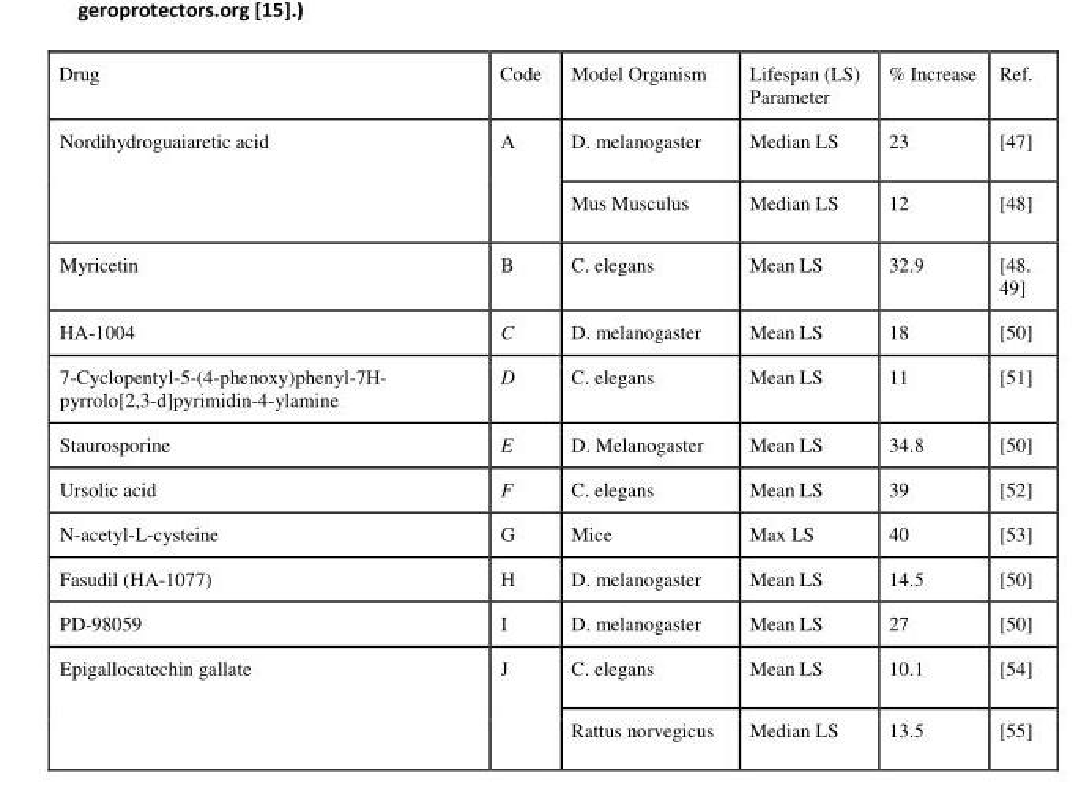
<table><thead><tr><td>Drug</td><td>Code</td><td>Model Organism</td><td>Lifespan (LS) Parameter</td><td>% Increase</td><td>Ref.</td></tr></thead><tbody><tr><td rowspan="2">Nordihydroguaiaretic acid</td><td rowspan="2">A</td><td>D. melanogaster</td><td>Median LS</td><td>23</td><td>[47]</td></tr><tr><td>Mus Musculus</td><td>Median LS</td><td>12</td><td>[48]</td></tr><tr><td>Myricetin</td><td>B</td><td>C. elegans</td><td>Mean LS</td><td>32.9</td><td>[48. 49]</td></tr><tr><td>HA-1004</td><td>C</td><td>D. melanogaster</td><td>Mean LS</td><td>18</td><td>[50]</td></tr><tr><td>7-Cyclopentyl-5-(4-phenoxy)phenyl-7H- pyrrolo[2,3-d]pyrimidin-4-ylamine</td><td>D</td><td>C. elegans</td><td>Mean LS</td><td>11</td><td>[51]</td></tr><tr><td>Staurosporine</td><td>E</td><td>D. Melanogaster</td><td>Mean LS</td><td>34.8</td><td>[50]</td></tr><tr><td>Ursolic acid</td><td>F</td><td>C. elegans</td><td>Mean LS</td><td>39</td><td>[52]</td></tr><tr><td>N-acetyl-L-cysteine</td><td>G</td><td>Mice</td><td>Max LS</td><td>40</td><td>[53]</td></tr><tr><td>Fasudil (HA-1077)</td><td>H</td><td>D. melanogaster</td><td>Mean LS</td><td>14.5</td><td>[50]</td></tr><tr><td>PD-98059</td><td>I</td><td>D. melanogaster</td><td>Mean LS</td><td>27</td><td>[50]</td></tr><tr><td rowspan="2">Epigallocatechin gallate</td><td rowspan="2">J</td><td>C. elegans</td><td>Mean LS</td><td>10.1</td><td>[54]</td></tr><tr><td>Rattus norvegicus</td><td>Median LS</td><td>13.5</td><td>[55]</td></tr></tbody></table>